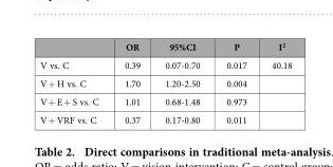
<table><thead><tr><td></td><td>OR</td><td>95%CI</td><td>P</td><td>I<sup>2</sup></td></tr></thead><tbody><tr><td>V vs. C</td><td>0.39</td><td>0.07-0.70</td><td>0.017</td><td>40.18</td></tr><tr><td>V + H vs. C</td><td>1.70</td><td>1.20-2.50</td><td>0.004</td><td></td></tr><tr><td>V + E + S vs. C</td><td>1.01</td><td>0.68-1.48</td><td>0.973</td><td></td></tr><tr><td>V + VRF vs. C</td><td>0.37</td><td>0.17-0.80</td><td>0.011</td><td></td></tr></tbody></table>